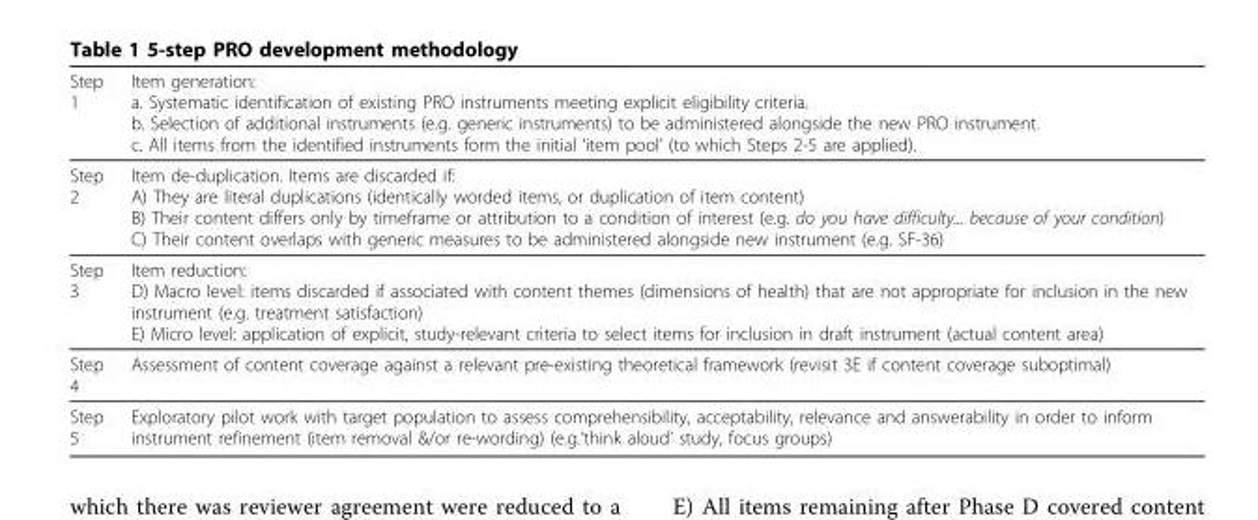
<table><thead><tr><td>Step 1</td><td>Item generation: a. Systematic identification of existing PRO instruments meeting explicit eligibility criteria. b. Selection of additional instruments (e.g. generic instruments) to be administered alongside the new PRO instrument. c. All items from the identified instruments form the initial ‘item pool’ (to which Steps 2-5 are applied).</td></tr></thead><tbody><tr><td>Step 2</td><td>Item de-duplication. Items are discarded if: A) They are literal duplications (identically worded items, or duplication of item content) B) Their content differs only by timeframe or attribution to a condition of interest (e.g. do you have difficulty... because of your condition) C) Their content overlaps with generic measures to be administered alongside new instrument (e.g. SF-36)</td></tr><tr><td>Step 3</td><td>Item reduction: D) Macro level: items discarded if associated with content themes (dimensions of health) that are not appropriate for inclusion in the new instrument (e.g. treatment satisfaction) E) Micro level: application of explicit, study-relevant criteria to select items for inclusion in draft instrument (actual content area)</td></tr><tr><td>Step 4</td><td>Assessment of content coverage against a relevant pre-existing theoretical framework (revisit 3E if content coverage suboptimal)</td></tr><tr><td>Step 5</td><td>Exploratory pilot work with target population to assess comprehensibility, acceptability, relevance and answerability in order to inform instrument refinement (item removal &amp;/or re-wording) (e.g.’think aloud’ study, focus groups)</td></tr></tbody></table>